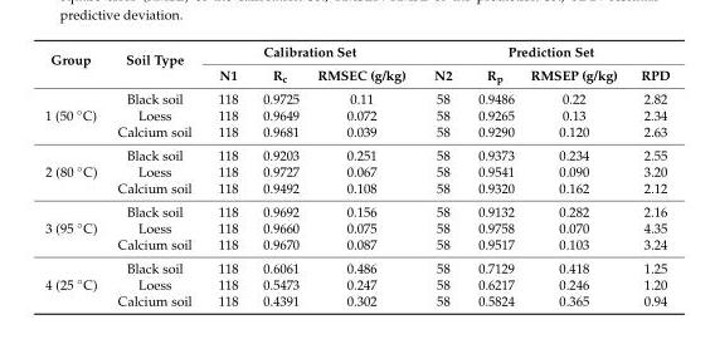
<table><thead><tr><td rowspan="2">Group</td><td rowspan="2">Soil Type</td><td colspan="3">Calibration Set</td><td colspan="4">Prediction Set</td></tr><tr><td>N1</td><td>R<sub>c</sub></td><td>RMSEC (g/kg)</td><td>N2</td><td>R<sub>p</sub></td><td>RMSEP (g/kg)</td><td>RPD</td></tr></thead><tbody><tr><td rowspan="3">1 (50 ◦C)</td><td>Black soil</td><td>118</td><td>0.9725</td><td>0.11</td><td>58</td><td>0.9486</td><td>0.22</td><td>2.82</td></tr><tr><td>Loess</td><td>118</td><td>0.9649</td><td>0.072</td><td>58</td><td>0.9265</td><td>0.13</td><td>2.34</td></tr><tr><td>Calcium soil</td><td>118</td><td>0.9681</td><td>0.039</td><td>58</td><td>0.9290</td><td>0.120</td><td>2.63</td></tr><tr><td rowspan="3">2 (80 ◦C)</td><td>Black soil</td><td>118</td><td>0.9203</td><td>0.251</td><td>58</td><td>0.9373</td><td>0.234</td><td>2.55</td></tr><tr><td>Loess</td><td>118</td><td>0.9727</td><td>0.067</td><td>58</td><td>0.9541</td><td>0.090</td><td>3.20</td></tr><tr><td>Calcium soil</td><td>118</td><td>0.9492</td><td>0.108</td><td>58</td><td>0.9320</td><td>0.162</td><td>2.12</td></tr><tr><td rowspan="3">3 (95 ◦C)</td><td>Black soil</td><td>118</td><td>0.9692</td><td>0.156</td><td>58</td><td>0.9132</td><td>0.282</td><td>2.16</td></tr><tr><td>Loess</td><td>118</td><td>0.9660</td><td>0.075</td><td>58</td><td>0.9758</td><td>0.070</td><td>4.35</td></tr><tr><td>Calcium soil</td><td>118</td><td>0.9670</td><td>0.087</td><td>58</td><td>0.9517</td><td>0.103</td><td>3.24</td></tr><tr><td rowspan="3">4 (25 ◦C)</td><td>Black soil</td><td>118</td><td>0.6061</td><td>0.486</td><td>58</td><td>0.7129</td><td>0.418</td><td>1.25</td></tr><tr><td>Loess</td><td>118</td><td>0.5473</td><td>0.247</td><td>58</td><td>0.6217</td><td>0.246</td><td>1.20</td></tr><tr><td>Calcium soil</td><td>118</td><td>0.4391</td><td>0.302</td><td>58</td><td>0.5824</td><td>0.365</td><td>0.94</td></tr></tbody></table>